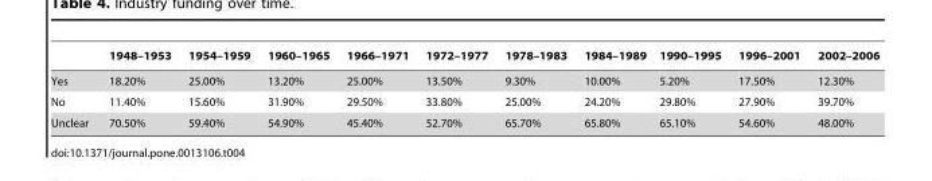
<table><thead><tr><td></td><td>1948–1953</td><td>1954–1959</td><td>1960–1965</td><td>1966–1971</td><td>1972–1977</td><td>1978–1983</td><td>1984–1989</td><td>1990–1995</td><td>1996–2001</td><td>2002–2006</td></tr></thead><tbody><tr><td>Yes</td><td>18.20%</td><td>25.00%</td><td>13.20%</td><td>25.00%</td><td>13.50%</td><td>9.30%</td><td>10.00%</td><td>5.20%</td><td>17.50%</td><td>12.30%</td></tr><tr><td>No</td><td>11.40%</td><td>15.60%</td><td>31.90%</td><td>29.50%</td><td>33.80%</td><td>25.00%</td><td>24.20%</td><td>29.80%</td><td>27.90%</td><td>39.70%</td></tr><tr><td>Unclear</td><td>70.50%</td><td>59.40%</td><td>54.90%</td><td>45.40%</td><td>52.70%</td><td>65.70%</td><td>65.80%</td><td>65.10%</td><td>54.60%</td><td>48.00%</td></tr></tbody></table>